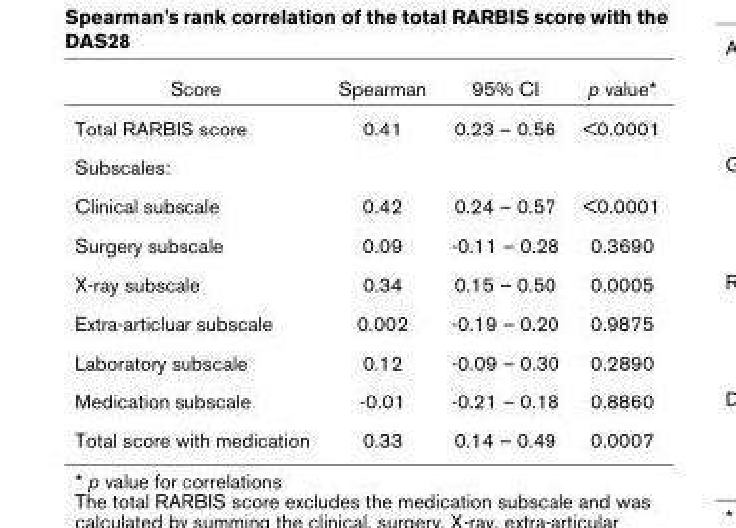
<table><thead><tr><td>Score</td><td>Spearman</td><td>95% CI</td><td>p value*</td></tr></thead><tbody><tr><td>Total RARBIS score</td><td>0.41</td><td>0.23 – 0.56</td><td>&lt;0.0001</td></tr><tr><td colspan="4">Subscales:</td></tr><tr><td>Clinical subscale</td><td>0.42</td><td>0.24 – 0.57</td><td>&lt;0.0001</td></tr><tr><td>Surgery subscale</td><td>0.09</td><td>-0.11 – 0.28</td><td>0.3690</td></tr><tr><td>X-ray subscale</td><td>0.34</td><td>0.15 – 0.50</td><td>0.0005</td></tr><tr><td>Extra-articluar subscale</td><td>0.002</td><td>-0.19 – 0.20</td><td>0.9875</td></tr><tr><td>Laboratory subscale</td><td>0.12</td><td>-0.09 – 0.30</td><td>0.2890</td></tr><tr><td>Medication subscale</td><td>-0.01</td><td>-0.21 – 0.18</td><td>0.8860</td></tr><tr><td>Total score with medication</td><td>0.33</td><td>0.14 – 0.49</td><td>0.0007</td></tr></tbody></table>